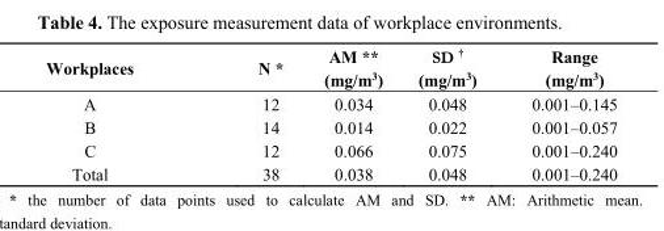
<table><thead><tr><td>Workplaces</td><td>N *</td><td>AM ** (mg/m<sup>3</sup>)</td><td>SD <sup>†</sup> (mg/m<sup>3</sup>)</td><td>Range (mg/m<sup>3</sup>)</td></tr></thead><tbody><tr><td>A</td><td>12</td><td>0.034</td><td>0.048</td><td>0.001–0.145</td></tr><tr><td>B</td><td>14</td><td>0.014</td><td>0.022</td><td>0.001–0.057</td></tr><tr><td>C</td><td>12</td><td>0.066</td><td>0.075</td><td>0.001–0.240</td></tr><tr><td>Total</td><td>38</td><td>0.038</td><td>0.048</td><td>0.001–0.240</td></tr></tbody></table>